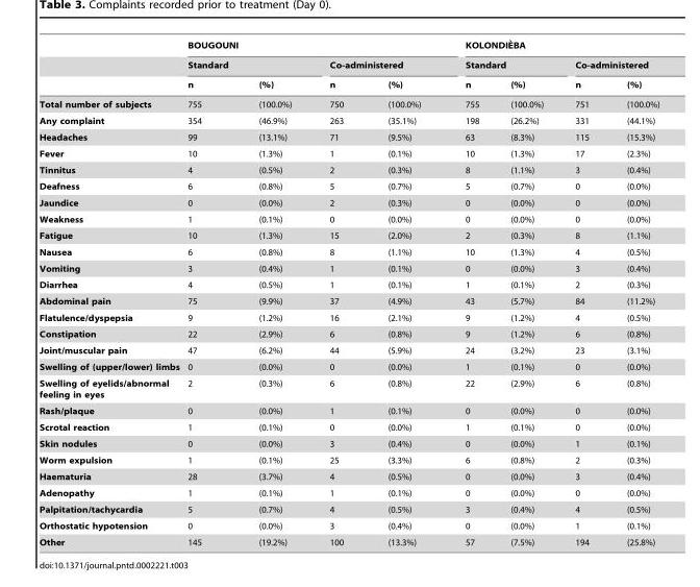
<table><thead><tr><td rowspan="3"></td><td colspan="4">BOUGOUNI</td><td colspan="4">KOLONDIE`BA</td></tr><tr><td colspan="2">Standard</td><td colspan="2">Co-administered</td><td colspan="2">Standard</td><td colspan="2">Co-administered</td></tr><tr><td>n</td><td>(%)</td><td>n</td><td>(%)</td><td>n</td><td>(%)</td><td>n</td><td>(%)</td></tr></thead><tbody><tr><td>Total number of subjects</td><td>755</td><td>(100.0%)</td><td>750</td><td>(100.0%)</td><td>755</td><td>(100.0%)</td><td>751</td><td>(100.0%)</td></tr><tr><td>Any complaint</td><td>354</td><td>(46.9%)</td><td>263</td><td>(35.1%)</td><td>198</td><td>(26.2%)</td><td>331</td><td>(44.1%)</td></tr><tr><td>Headaches</td><td>99</td><td>(13.1%)</td><td>71</td><td>(9.5%)</td><td>63</td><td>(8.3%)</td><td>115</td><td>(15.3%)</td></tr><tr><td>Fever</td><td>10</td><td>(1.3%)</td><td>1</td><td>(0.1%)</td><td>10</td><td>(1.3%)</td><td>17</td><td>(2.3%)</td></tr><tr><td>Tinnitus</td><td>4</td><td>(0.5%)</td><td>2</td><td>(0.3%)</td><td>8</td><td>(1.1%)</td><td>3</td><td>(0.4%)</td></tr><tr><td>Deafness</td><td>6</td><td>(0.8%)</td><td>5</td><td>(0.7%)</td><td>5</td><td>(0.7%)</td><td>0</td><td>(0.0%)</td></tr><tr><td>Jaundice</td><td>0</td><td>(0.0%)</td><td>2</td><td>(0.3%)</td><td>0</td><td>(0.0%)</td><td>0</td><td>(0.0%)</td></tr><tr><td>Weakness</td><td>1</td><td>(0.1%)</td><td>0</td><td>(0.0%)</td><td>0</td><td>(0.0%)</td><td>0</td><td>(0.0%)</td></tr><tr><td>Fatigue</td><td>10</td><td>(1.3%)</td><td>15</td><td>(2.0%)</td><td>2</td><td>(0.3%)</td><td>8</td><td>(1.1%)</td></tr><tr><td>Nausea</td><td>6</td><td>(0.8%)</td><td>8</td><td>(1.1%)</td><td>10</td><td>(1.3%)</td><td>4</td><td>(0.5%)</td></tr><tr><td>Vomiting</td><td>3</td><td>(0.4%)</td><td>1</td><td>(0.1%)</td><td>0</td><td>(0.0%)</td><td>3</td><td>(0.4%)</td></tr><tr><td>Diarrhea</td><td>4</td><td>(0.5%)</td><td>1</td><td>(0.1%)</td><td>1</td><td>(0.1%)</td><td>2</td><td>(0.3%)</td></tr><tr><td>Abdominal pain</td><td>75</td><td>(9.9%)</td><td>37</td><td>(4.9%)</td><td>43</td><td>(5.7%)</td><td>84</td><td>(11.2%)</td></tr><tr><td>Flatulence/dyspepsia</td><td>9</td><td>(1.2%)</td><td>16</td><td>(2.1%)</td><td>9</td><td>(1.2%)</td><td>4</td><td>(0.5%)</td></tr><tr><td>Constipation</td><td>22</td><td>(2.9%)</td><td>6</td><td>(0.8%)</td><td>9</td><td>(1.2%)</td><td>6</td><td>(0.8%)</td></tr><tr><td>Joint/muscular pain</td><td>47</td><td>(6.2%)</td><td>44</td><td>(5.9%)</td><td>24</td><td>(3.2%)</td><td>23</td><td>(3.1%)</td></tr><tr><td>Swelling of (upper/lower) limbs</td><td>0</td><td>(0.0%)</td><td>0</td><td>(0.0%)</td><td>1</td><td>(0.1%)</td><td>0</td><td>(0.0%)</td></tr><tr><td>Swelling of eyelids/abnormal feeling in eyes</td><td>2</td><td>(0.3%)</td><td>6</td><td>(0.8%)</td><td>22</td><td>(2.9%)</td><td>6</td><td>(0.8%)</td></tr><tr><td>Rash/plaque</td><td>0</td><td>(0.0%)</td><td>1</td><td>(0.1%)</td><td>0</td><td>(0.0%)</td><td>0</td><td>(0.0%)</td></tr><tr><td>Scrotal reaction</td><td>1</td><td>(0.1%)</td><td>0</td><td>(0.0%)</td><td>1</td><td>(0.1%)</td><td>0</td><td>(0.0%)</td></tr><tr><td>Skin nodules</td><td>0</td><td>(0.0%)</td><td>3</td><td>(0.4%)</td><td>0</td><td>(0.0%)</td><td>1</td><td>(0.1%)</td></tr><tr><td>Worm expulsion</td><td>1</td><td>(0.1%)</td><td>25</td><td>(3.3%)</td><td>6</td><td>(0.8%)</td><td>2</td><td>(0.3%)</td></tr><tr><td>Haematuria</td><td>28</td><td>(3.7%)</td><td>4</td><td>(0.5%)</td><td>0</td><td>(0.0%)</td><td>3</td><td>(0.4%)</td></tr><tr><td>Adenopathy</td><td>1</td><td>(0.1%)</td><td>1</td><td>(0.1%)</td><td>0</td><td>(0.0%)</td><td>0</td><td>(0.0%)</td></tr><tr><td>Palpitation/tachycardia</td><td>5</td><td>(0.7%)</td><td>4</td><td>(0.5%)</td><td>3</td><td>(0.4%)</td><td>4</td><td>(0.5%)</td></tr><tr><td>Orthostatic hypotension</td><td>0</td><td>(0.0%)</td><td>3</td><td>(0.4%)</td><td>0</td><td>(0.0%)</td><td>1</td><td>(0.1%)</td></tr><tr><td>Other</td><td>145</td><td>(19.2%)</td><td>100</td><td>(13.3%)</td><td>57</td><td>(7.5%)</td><td>194</td><td>(25.8%)</td></tr></tbody></table>